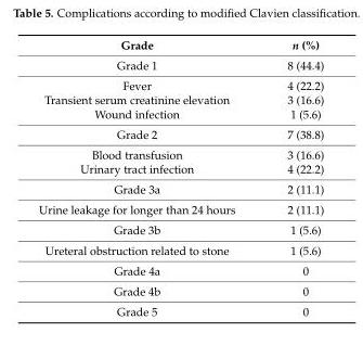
<table><thead><tr><td>Grade</td><td>n (%)</td></tr></thead><tbody><tr><td>Grade 1</td><td>8 (44.4)</td></tr><tr><td>Fever</td><td>4 (22.2)</td></tr><tr><td>Transient serum creatinine elevation</td><td>3 (16.6)</td></tr><tr><td>Wound infection</td><td>1 (5.6)</td></tr><tr><td>Grade 2</td><td>7 (38.8)</td></tr><tr><td>Blood transfusion</td><td>3 (16.6)</td></tr><tr><td>Urinary tract infection</td><td>4 (22.2)</td></tr><tr><td>Grade 3a</td><td>2 (11.1)</td></tr><tr><td>Urine leakage for longer than 24 hours</td><td>2 (11.1)</td></tr><tr><td>Grade 3b</td><td>1 (5.6)</td></tr><tr><td>Ureteral obstruction related to stone</td><td>1 (5.6)</td></tr><tr><td>Grade 4a</td><td>0</td></tr><tr><td>Grade 4b</td><td>0</td></tr><tr><td>Grade 5</td><td>0</td></tr></tbody></table>